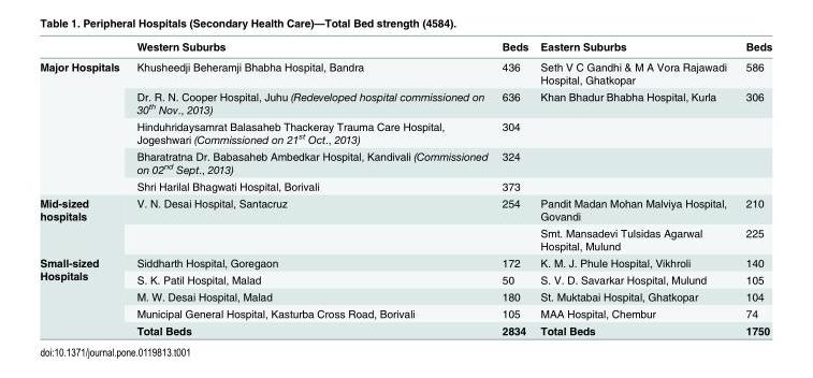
<table><thead><tr><td></td><td>Western Suburbs</td><td>Beds</td><td>Eastern Suburbs</td><td>Beds</td></tr></thead><tbody><tr><td rowspan="5">Major Hospitals</td><td>Khusheedji Beheramji Bhabha Hospital, Bandra</td><td>436</td><td>Seth V C Gandhi &amp; M A Vora Rajawadi Hospital, Ghatkopar</td><td>586</td></tr><tr><td>Dr. R. N. Cooper Hospital, Juhu (Redeveloped hospital commissioned on 30<sup>th</sup> Nov., 2013)</td><td>636</td><td>Khan Bhadur Bhabha Hospital, Kurla</td><td>306</td></tr><tr><td>Hinduhridaysamrat Balasaheb Thackeray Trauma Care Hospital, Jogeshwari (Commissioned on 21<sup>st</sup> Oct., 2013)</td><td>304</td><td></td><td></td></tr><tr><td>Bharatratna Dr. Babasaheb Ambedkar Hospital, Kandivali (Commissioned on 02<sup>nd</sup> Sept., 2013)</td><td>324</td><td></td><td></td></tr><tr><td>Shri Harilal Bhagwati Hospital, Borivali</td><td>373</td><td></td><td></td></tr><tr><td rowspan="2">Mid-sized hospitals</td><td>V. N. Desai Hospital, Santacruz</td><td>254</td><td>Pandit Madan Mohan Malviya Hospital, Govandi</td><td>210</td></tr><tr><td></td><td></td><td>Smt. Mansadevi Tulsidas Agarwal Hospital, Mulund</td><td>225</td></tr><tr><td rowspan="5">Small-sized Hospitals</td><td>Siddharth Hospital, Goregaon</td><td>172</td><td>K. M. J. Phule Hospital, Vikhroli</td><td>140</td></tr><tr><td>S. K. Patil Hospital, Malad</td><td>50</td><td>S. V. D. Savarkar Hospital, Mulund</td><td>105</td></tr><tr><td>M. W. Desai Hospital, Malad</td><td>180</td><td>St. Muktabai Hospital, Ghatkopar</td><td>104</td></tr><tr><td>Municipal General Hospital, Kasturba Cross Road, Borivali</td><td>105</td><td>MAA Hospital, Chembur</td><td>74</td></tr><tr><td>Total Beds</td><td>2834</td><td>Total Beds</td><td>1750</td></tr></tbody></table>